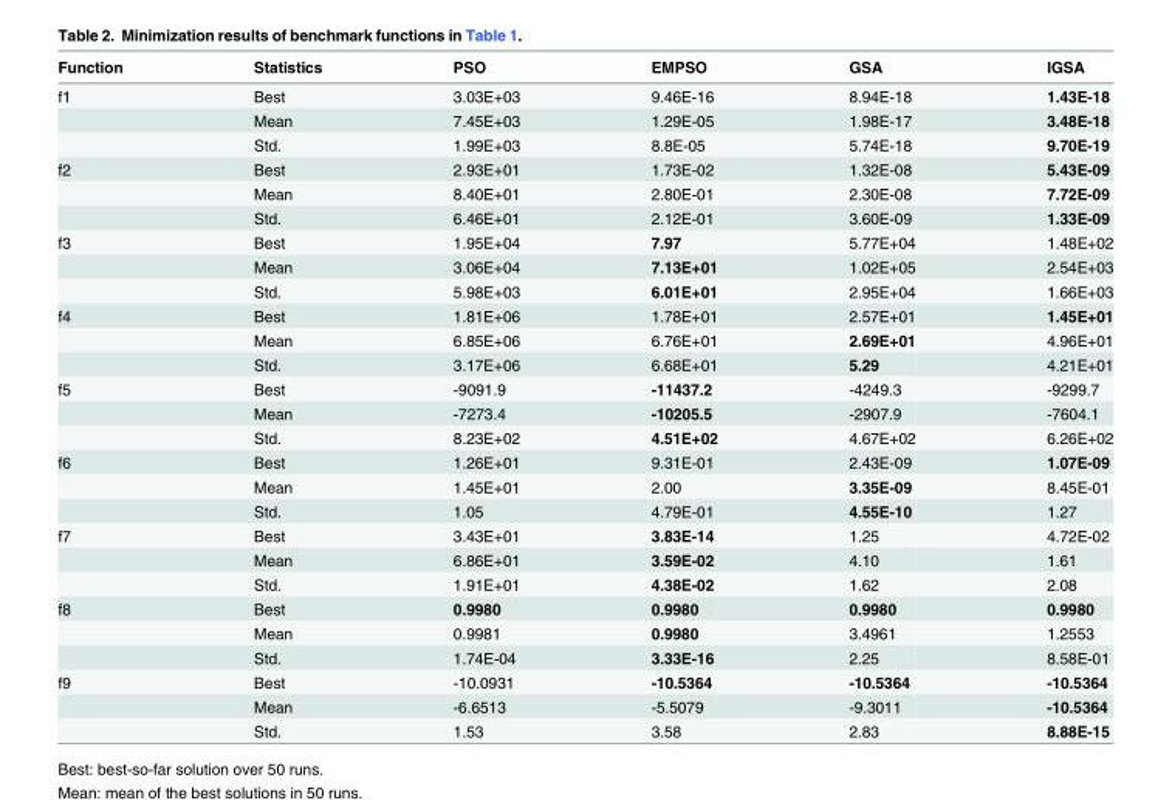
<table><thead><tr><td>Function</td><td>Statistics</td><td>PSO</td><td>EMPSO</td><td>GSA</td><td>IGSA</td></tr></thead><tbody><tr><td rowspan="3">f1</td><td>Best</td><td>3.03E+03</td><td>9.46E-16</td><td>8.94E-18</td><td>1.43E-18</td></tr><tr><td>Mean</td><td>7.45E+03</td><td>1.29E-05</td><td>1.98E-17</td><td>3.48E-18</td></tr><tr><td>Std.</td><td>1.99E+03</td><td>8.8E-05</td><td>5.74E-18</td><td>9.70E-19</td></tr><tr><td rowspan="3">f2</td><td>Best</td><td>2.93E+01</td><td>1.73E-02</td><td>1.32E-08</td><td>5.43E-09</td></tr><tr><td>Mean</td><td>8.40E+01</td><td>2.80E-01</td><td>2.30E-08</td><td>7.72E-09</td></tr><tr><td>Std.</td><td>6.46E+01</td><td>2.12E-01</td><td>3.60E-09</td><td>1.33E-09</td></tr><tr><td rowspan="3">f3</td><td>Best</td><td>1.95E+04</td><td>7.97</td><td>5.77E+04</td><td>1.48E+02</td></tr><tr><td>Mean</td><td>3.06E+04</td><td>7.13E+01</td><td>1.02E+05</td><td>2.54E+03</td></tr><tr><td>Std.</td><td>5.98E+03</td><td>6.01E+01</td><td>2.95E+04</td><td>1.66E+03</td></tr><tr><td rowspan="3">f4</td><td>Best</td><td>1.81E+06</td><td>1.78E+01</td><td>2.57E+01</td><td>1.45E+01</td></tr><tr><td>Mean</td><td>6.85E+06</td><td>6.76E+01</td><td>2.69E+01</td><td>4.96E+01</td></tr><tr><td>Std.</td><td>3.17E+06</td><td>6.68E+01</td><td>5.29</td><td>4.21E+01</td></tr><tr><td rowspan="3">f5</td><td>Best</td><td>-9091.9</td><td>-11437.2</td><td>-4249.3</td><td>-9299.7</td></tr><tr><td>Mean</td><td>-7273.4</td><td>-10205.5</td><td>-2907.9</td><td>-7604.1</td></tr><tr><td>Std.</td><td>8.23E+02</td><td>4.51E+02</td><td>4.67E+02</td><td>6.26E+02</td></tr><tr><td rowspan="3">f6</td><td>Best</td><td>1.26E+01</td><td>9.31E-01</td><td>2.43E-09</td><td>1.07E-09</td></tr><tr><td>Mean</td><td>1.45E+01</td><td>2.00</td><td>3.35E-09</td><td>8.45E-01</td></tr><tr><td>Std.</td><td>1.05</td><td>4.79E-01</td><td>4.55E-10</td><td>1.27</td></tr><tr><td rowspan="3">f7</td><td>Best</td><td>3.43E+01</td><td>3.83E-14</td><td>1.25</td><td>4.72E-02</td></tr><tr><td>Mean</td><td>6.86E+01</td><td>3.59E-02</td><td>4.10</td><td>1.61</td></tr><tr><td>Std.</td><td>1.91E+01</td><td>4.38E-02</td><td>1.62</td><td>2.08</td></tr><tr><td rowspan="3">f8</td><td>Best</td><td>0.9980</td><td>0.9980</td><td>0.9980</td><td>0.9980</td></tr><tr><td>Mean</td><td>0.9981</td><td>0.9980</td><td>3.4961</td><td>1.2553</td></tr><tr><td>Std.</td><td>1.74E-04</td><td>3.33E-16</td><td>2.25</td><td>8.58E-01</td></tr><tr><td rowspan="3">f9</td><td>Best</td><td>-10.0931</td><td>-10.5364</td><td>-10.5364</td><td>-10.5364</td></tr><tr><td>Mean</td><td>-6.6513</td><td>-5.5079</td><td>-9.3011</td><td>-10.5364</td></tr><tr><td>Std.</td><td>1.53</td><td>3.58</td><td>2.83</td><td>8.88E-15</td></tr></tbody></table>